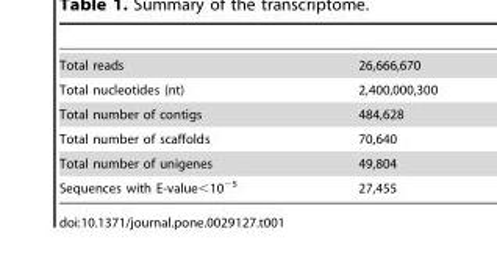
<table><tbody><tr><td>Total reads</td><td>26,666,670</td></tr><tr><td>Total nucleotides (nt)</td><td>2,400,000,300</td></tr><tr><td>Total number of contigs</td><td>484,628</td></tr><tr><td>Total number of scaffolds</td><td>70,640</td></tr><tr><td>Total number of unigenes</td><td>49,804</td></tr><tr><td>Sequences with E-value&lt;10<sup>−5</sup></td><td>27,455</td></tr></tbody></table>